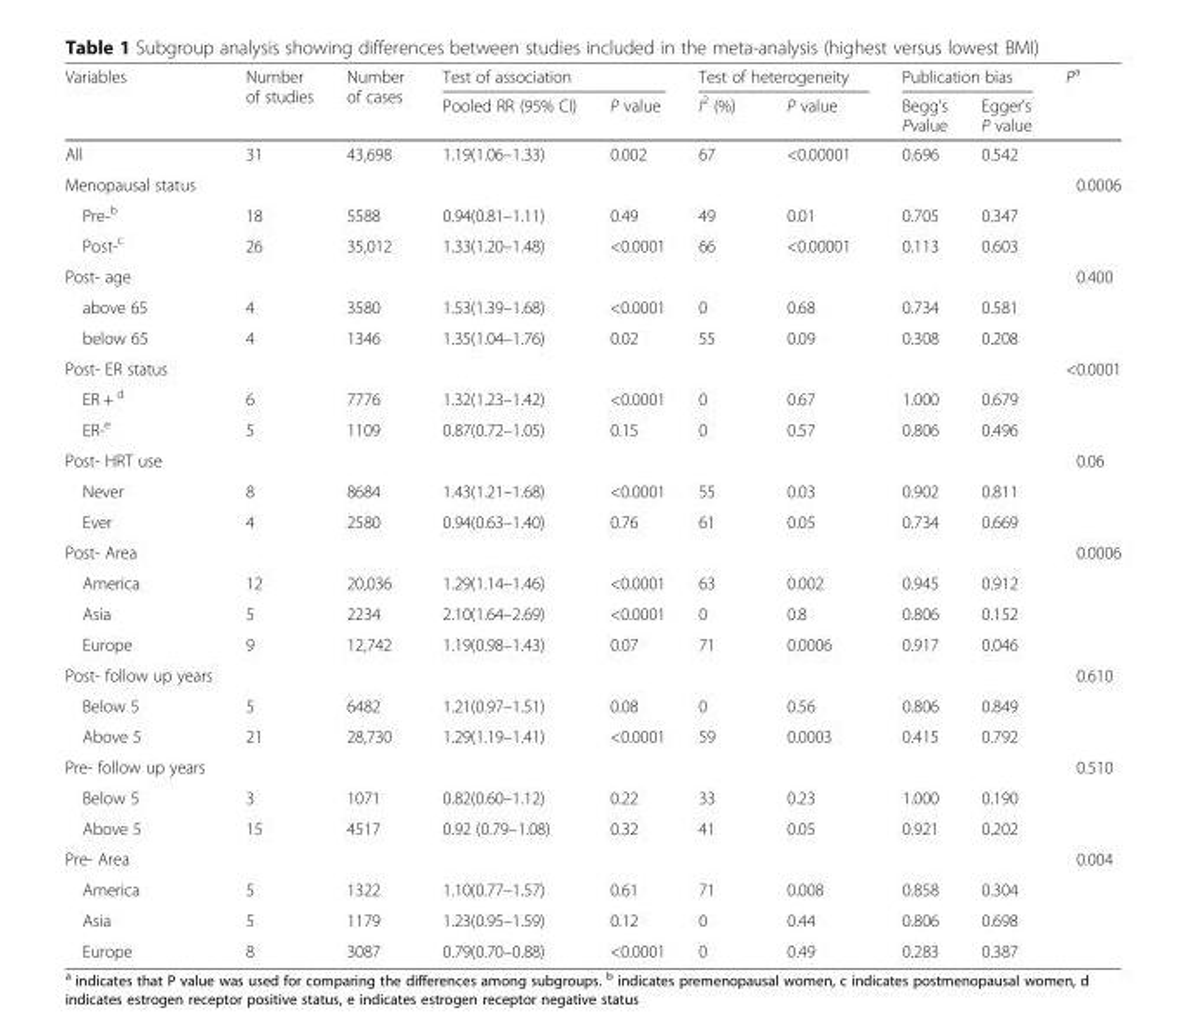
<table><thead><tr><td rowspan="2">Variables</td><td rowspan="2">Number of studies</td><td rowspan="2">Number of cases</td><td colspan="2">Test of association</td><td colspan="2">Test of heterogeneity</td><td colspan="2">Publication bias</td><td rowspan="2">P<sup>a</sup></td></tr><tr><td>Pooled RR (95% CI)</td><td>P value</td><td>I<sup>2</sup> (%)</td><td>P value</td><td>Begg’s Pvalue</td><td>Egger’s P value</td></tr></thead><tbody><tr><td>All</td><td>31</td><td>43,698</td><td>1.19(1.06–1.33)</td><td>0.002</td><td>67</td><td>&lt;0.00001</td><td>0.696</td><td>0.542</td><td></td></tr><tr><td>Menopausal status</td><td></td><td></td><td></td><td></td><td></td><td></td><td></td><td></td><td>0.0006</td></tr><tr><td>Pre-<sup>b</sup></td><td>18</td><td>5588</td><td>0.94(0.81–1.11)</td><td>0.49</td><td>49</td><td>0.01</td><td>0.705</td><td>0.347</td><td></td></tr><tr><td>Post-<sup>c</sup></td><td>26</td><td>35,012</td><td>1.33(1.20–1.48)</td><td>&lt;0.0001</td><td>66</td><td>&lt;0.00001</td><td>0.113</td><td>0.603</td><td></td></tr><tr><td>Post- age</td><td></td><td></td><td></td><td></td><td></td><td></td><td></td><td></td><td>0.400</td></tr><tr><td>above 65</td><td>4</td><td>3580</td><td>1.53(1.39–1.68)</td><td>&lt;0.0001</td><td>0</td><td>0.68</td><td>0.734</td><td>0.581</td><td></td></tr><tr><td>below 65</td><td>4</td><td>1346</td><td>1.35(1.04–1.76)</td><td>0.02</td><td>55</td><td>0.09</td><td>0.308</td><td>0.208</td><td></td></tr><tr><td>Post- ER status</td><td></td><td></td><td></td><td></td><td></td><td></td><td></td><td></td><td>&lt;0.0001</td></tr><tr><td>ER + <sup>d</sup></td><td>6</td><td>7776</td><td>1.32(1.23–1.42)</td><td>&lt;0.0001</td><td>0</td><td>0.67</td><td>1.000</td><td>0.679</td><td></td></tr><tr><td>ER-<sup>e</sup></td><td>5</td><td>1109</td><td>0.87(0.72–1.05)</td><td>0.15</td><td>0</td><td>0.57</td><td>0.806</td><td>0.496</td><td></td></tr><tr><td>Post- HRT use</td><td></td><td></td><td></td><td></td><td></td><td></td><td></td><td></td><td>0.06</td></tr><tr><td>Never</td><td>8</td><td>8684</td><td>1.43(1.21–1.68)</td><td>&lt;0.0001</td><td>55</td><td>0.03</td><td>0.902</td><td>0.811</td><td></td></tr><tr><td>Ever</td><td>4</td><td>2580</td><td>0.94(0.63–1.40)</td><td>0.76</td><td>61</td><td>0.05</td><td>0.734</td><td>0.669</td><td></td></tr><tr><td>Post- Area</td><td></td><td></td><td></td><td></td><td></td><td></td><td></td><td></td><td>0.0006</td></tr><tr><td>America</td><td>12</td><td>20,036</td><td>1.29(1.14–1.46)</td><td>&lt;0.0001</td><td>63</td><td>0.002</td><td>0.945</td><td>0.912</td><td></td></tr><tr><td>Asia</td><td>5</td><td>2234</td><td>2.10(1.64–2.69)</td><td>&lt;0.0001</td><td>0</td><td>0.8</td><td>0.806</td><td>0.152</td><td></td></tr><tr><td>Europe</td><td>9</td><td>12,742</td><td>1.19(0.98–1.43)</td><td>0.07</td><td>71</td><td>0.0006</td><td>0.917</td><td>0.046</td><td></td></tr><tr><td>Post- follow up years</td><td></td><td></td><td></td><td></td><td></td><td></td><td></td><td></td><td>0.610</td></tr><tr><td>Below 5</td><td>5</td><td>6482</td><td>1.21(0.97–1.51)</td><td>0.08</td><td>0</td><td>0.56</td><td>0.806</td><td>0.849</td><td></td></tr><tr><td>Above 5</td><td>21</td><td>28,730</td><td>1.29(1.19–1.41)</td><td>&lt;0.0001</td><td>59</td><td>0.0003</td><td>0.415</td><td>0.792</td><td></td></tr><tr><td>Pre- follow up years</td><td></td><td></td><td></td><td></td><td></td><td></td><td></td><td></td><td>0.510</td></tr><tr><td>Below 5</td><td>3</td><td>1071</td><td>0.82(0.60–1.12)</td><td>0.22</td><td>33</td><td>0.23</td><td>1.000</td><td>0.190</td><td></td></tr><tr><td>Above 5</td><td>15</td><td>4517</td><td>0.92 (0.79–1.08)</td><td>0.32</td><td>41</td><td>0.05</td><td>0.921</td><td>0.202</td><td></td></tr><tr><td>Pre- Area</td><td></td><td></td><td></td><td></td><td></td><td></td><td></td><td></td><td>0.004</td></tr><tr><td>America</td><td>5</td><td>1322</td><td>1.10(0.77–1.57)</td><td>0.61</td><td>71</td><td>0.008</td><td>0.858</td><td>0.304</td><td></td></tr><tr><td>Asia</td><td>5</td><td>1179</td><td>1.23(0.95–1.59)</td><td>0.12</td><td>0</td><td>0.44</td><td>0.806</td><td>0.698</td><td></td></tr><tr><td>Europe</td><td>8</td><td>3087</td><td>0.79(0.70–0.88)</td><td>&lt;0.0001</td><td>0</td><td>0.49</td><td>0.283</td><td>0.387</td><td></td></tr></tbody></table>